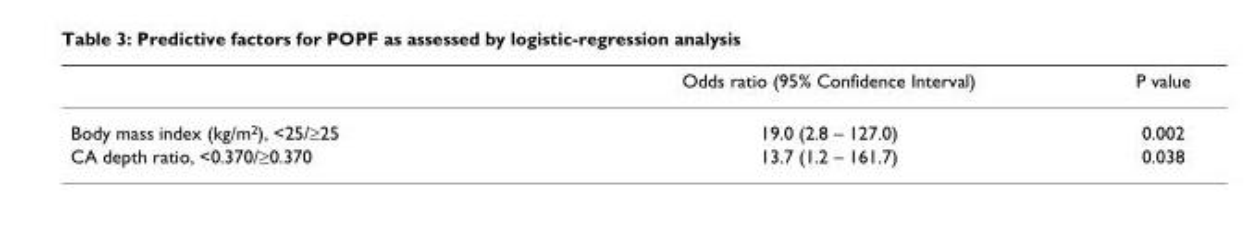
<table><thead><tr><td></td><td>Odds ratio (95% Confidence Interval)</td><td>P value</td></tr></thead><tbody><tr><td>Body mass index (kg/m<sup>2</sup>), &lt;25/≥25</td><td>19.0 (2.8 – 127.0)</td><td>0.002</td></tr><tr><td>CA depth ratio, &lt;0.370/≥0.370</td><td>13.7 (1.2 – 161.7)</td><td>0.038</td></tr></tbody></table>